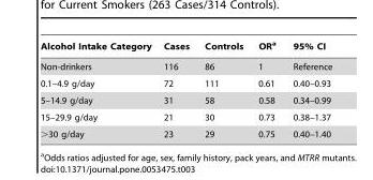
<table><thead><tr><td>Alcohol Intake Category</td><td>Cases</td><td>Controls</td><td>OR<sup>a</sup></td><td>95% CI</td></tr></thead><tbody><tr><td>Non-drinkers</td><td>116</td><td>86</td><td>1</td><td>Reference</td></tr><tr><td>0.1–4.9 g/day</td><td>72</td><td>111</td><td>0.61</td><td>0.40–0.93</td></tr><tr><td>5–14.9 g/day</td><td>31</td><td>58</td><td>0.58</td><td>0.34–0.99</td></tr><tr><td>15–29.9 g/day</td><td>21</td><td>30</td><td>0.73</td><td>0.38–1.37</td></tr><tr><td>&gt;30 g/day</td><td>23</td><td>29</td><td>0.75</td><td>0.40–1.40</td></tr></tbody></table>